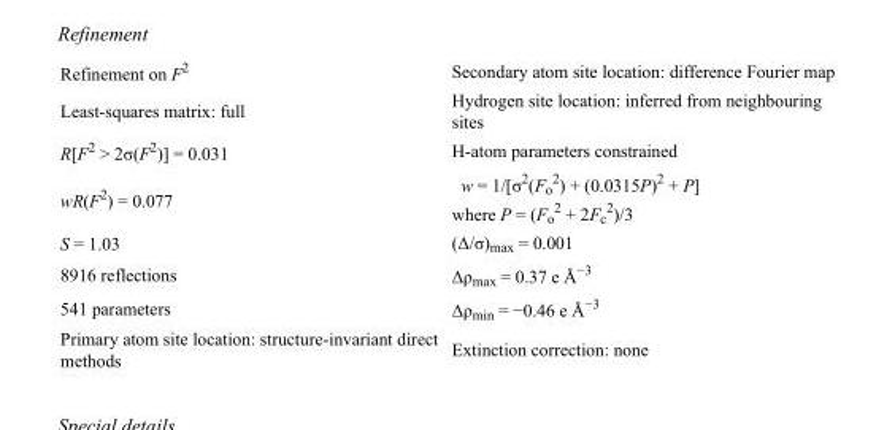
<table><tbody><tr><td>Refinement on F<sup>2</sup></td><td>Secondary atom site location: difference Fourier map</td></tr><tr><td>Least-squares matrix: full</td><td>Hydrogen site location: inferred from neighbouring sites</td></tr><tr><td>R[F<sup>2</sup> &gt; 2σ(F<sup>2</sup>)] = 0.031</td><td>H-atom parameters constrained</td></tr><tr><td>wR(F<sup>2</sup>) = 0.077</td><td>w = 1/[σ<sup>2</sup>(F<sub>o</sub> <sup>2</sup>) + (0.0315P)<sup>2</sup> + P] where P = (F<sub>o</sub> <sup>2</sup> + 2F<sub>c</sub> <sup>2</sup>)/3</td></tr><tr><td>S = 1.03</td><td>(Δ/σ)<sub>max</sub> = 0.001</td></tr><tr><td>8916 reflections</td><td>Δρ<sub>max</sub> = 0.37 e Å<sup>−3</sup></td></tr><tr><td>541 parameters</td><td>Δρ<sub>min</sub> = −0.46 e Å<sup>−3</sup></td></tr><tr><td>Primary atom site location: structure-invariant direct methods</td><td>Extinction correction: none</td></tr></tbody></table>